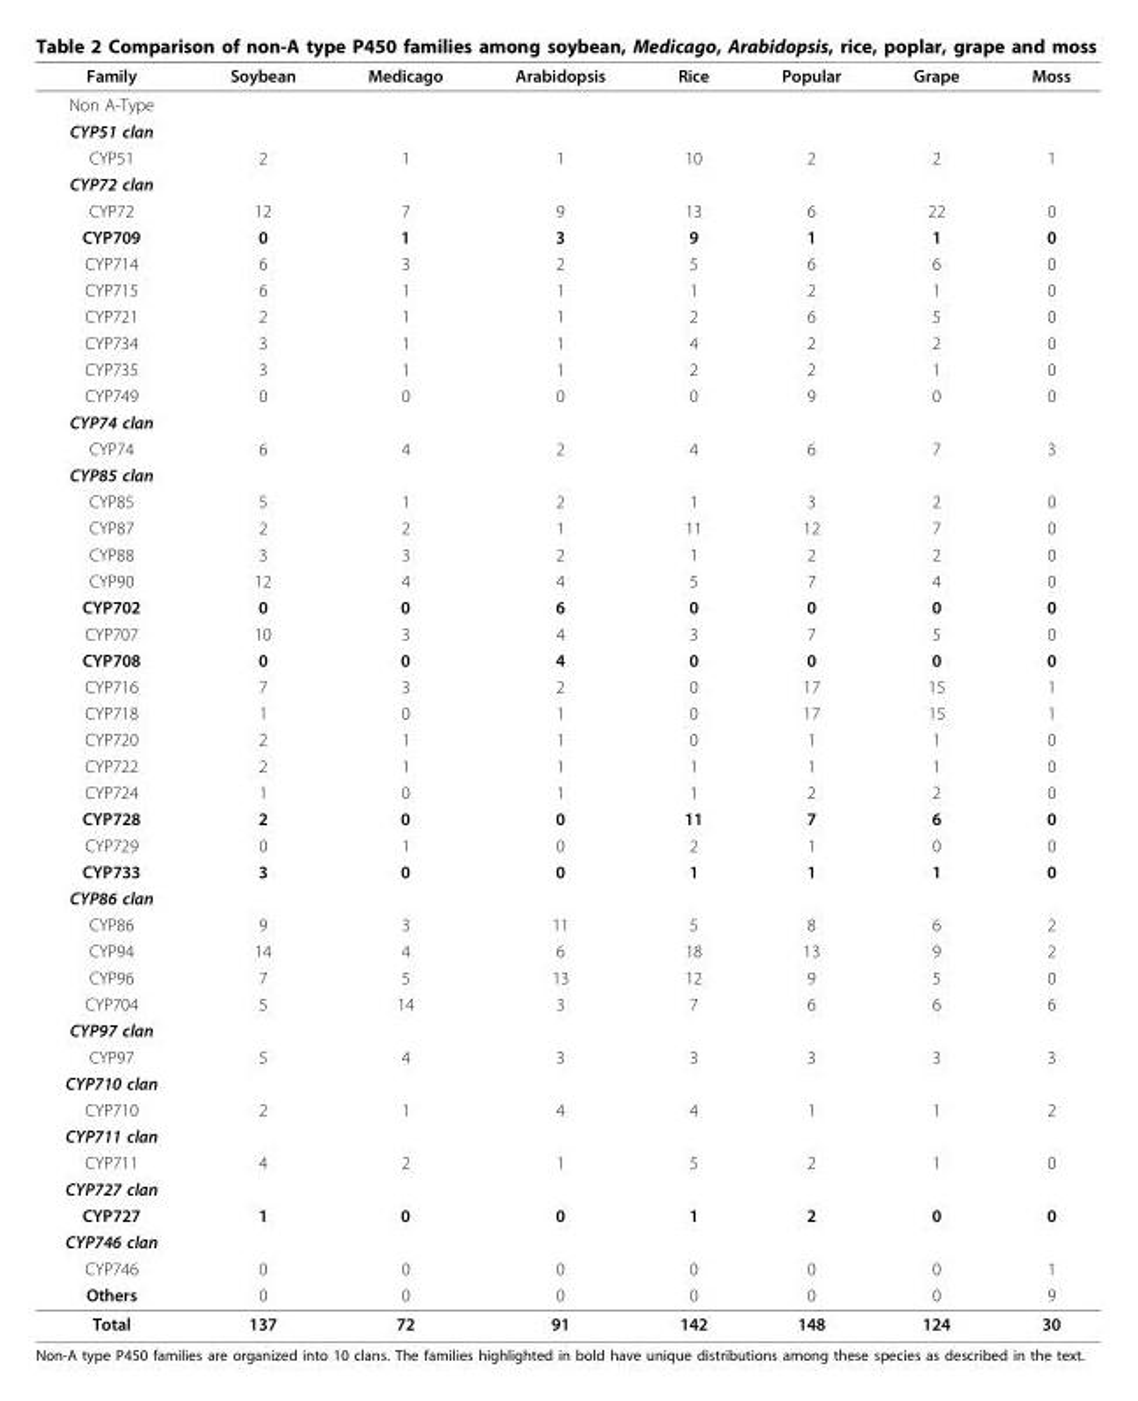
<table><thead><tr><td>Family</td><td>Soybean</td><td>Medicago</td><td>Arabidopsis</td><td>Rice</td><td>Popular</td><td>Grape</td><td>Moss</td></tr></thead><tbody><tr><td colspan="8">Non A-Type</td></tr><tr><td colspan="8">CYP51 clan</td></tr><tr><td>CYP51</td><td>2</td><td>1</td><td>1</td><td>10</td><td>2</td><td>2</td><td>1</td></tr><tr><td colspan="8">CYP72 clan</td></tr><tr><td>CYP72</td><td>12</td><td>7</td><td>9</td><td>13</td><td>6</td><td>22</td><td>0</td></tr><tr><td>CYP709</td><td>0</td><td>1</td><td>3</td><td>9</td><td>1</td><td>1</td><td>0</td></tr><tr><td>CYP714</td><td>6</td><td>3</td><td>2</td><td>5</td><td>6</td><td>6</td><td>0</td></tr><tr><td>CYP715</td><td>6</td><td>1</td><td>1</td><td>1</td><td>2</td><td>1</td><td>0</td></tr><tr><td>CYP721</td><td>2</td><td>1</td><td>1</td><td>2</td><td>6</td><td>5</td><td>0</td></tr><tr><td>CYP734</td><td>3</td><td>1</td><td>1</td><td>4</td><td>2</td><td>2</td><td>0</td></tr><tr><td>CYP735</td><td>3</td><td>1</td><td>1</td><td>2</td><td>2</td><td>1</td><td>0</td></tr><tr><td>CYP749</td><td>0</td><td>0</td><td>0</td><td>0</td><td>9</td><td>0</td><td>0</td></tr><tr><td colspan="8">CYP74 clan</td></tr><tr><td>CYP74</td><td>6</td><td>4</td><td>2</td><td>4</td><td>6</td><td>7</td><td>3</td></tr><tr><td colspan="8">CYP85 clan</td></tr><tr><td>CYP85</td><td>5</td><td>1</td><td>2</td><td>1</td><td>3</td><td>2</td><td>0</td></tr><tr><td>CYP87</td><td>2</td><td>2</td><td>1</td><td>11</td><td>12</td><td>7</td><td>0</td></tr><tr><td>CYP88</td><td>3</td><td>3</td><td>2</td><td>1</td><td>2</td><td>2</td><td>0</td></tr><tr><td>CYP90</td><td>12</td><td>4</td><td>4</td><td>5</td><td>7</td><td>4</td><td>0</td></tr><tr><td>CYP702</td><td>0</td><td>0</td><td>6</td><td>0</td><td>0</td><td>0</td><td>0</td></tr><tr><td>CYP707</td><td>10</td><td>3</td><td>4</td><td>3</td><td>7</td><td>5</td><td>0</td></tr><tr><td>CYP708</td><td>0</td><td>0</td><td>4</td><td>0</td><td>0</td><td>0</td><td>0</td></tr><tr><td>CYP716</td><td>7</td><td>3</td><td>2</td><td>0</td><td>17</td><td>15</td><td>1</td></tr><tr><td>CYP718</td><td>1</td><td>0</td><td>1</td><td>0</td><td>17</td><td>15</td><td>1</td></tr><tr><td>CYP720</td><td>2</td><td>1</td><td>1</td><td>0</td><td>1</td><td>1</td><td>0</td></tr><tr><td>CYP722</td><td>2</td><td>1</td><td>1</td><td>1</td><td>1</td><td>1</td><td>0</td></tr><tr><td>CYP724</td><td>1</td><td>0</td><td>1</td><td>1</td><td>2</td><td>2</td><td>0</td></tr><tr><td>CYP728</td><td>2</td><td>0</td><td>0</td><td>11</td><td>7</td><td>6</td><td>0</td></tr><tr><td>CYP729</td><td>0</td><td>1</td><td>0</td><td>2</td><td>1</td><td>0</td><td>0</td></tr><tr><td>CYP733</td><td>3</td><td>0</td><td>0</td><td>1</td><td>1</td><td>1</td><td>0</td></tr><tr><td colspan="8">CYP86 clan</td></tr><tr><td>CYP86</td><td>9</td><td>3</td><td>11</td><td>5</td><td>8</td><td>6</td><td>2</td></tr><tr><td>CYP94</td><td>14</td><td>4</td><td>6</td><td>18</td><td>13</td><td>9</td><td>2</td></tr><tr><td>CYP96</td><td>7</td><td>5</td><td>13</td><td>12</td><td>9</td><td>5</td><td>0</td></tr><tr><td>CYP704</td><td>5</td><td>14</td><td>3</td><td>7</td><td>6</td><td>6</td><td>6</td></tr><tr><td colspan="8">CYP97 clan</td></tr><tr><td>CYP97</td><td>5</td><td>4</td><td>3</td><td>3</td><td>3</td><td>3</td><td>3</td></tr><tr><td colspan="8">CYP710 clan</td></tr><tr><td>CYP710</td><td>2</td><td>1</td><td>4</td><td>4</td><td>1</td><td>1</td><td>2</td></tr><tr><td colspan="8">CYP711 clan</td></tr><tr><td>CYP711</td><td>4</td><td>2</td><td>1</td><td>5</td><td>2</td><td>1</td><td>0</td></tr><tr><td colspan="8">CYP727 clan</td></tr><tr><td>CYP727</td><td>1</td><td>0</td><td>0</td><td>1</td><td>2</td><td>0</td><td>0</td></tr><tr><td colspan="8">CYP746 clan</td></tr><tr><td>CYP746</td><td>0</td><td>0</td><td>0</td><td>0</td><td>0</td><td>0</td><td>1</td></tr><tr><td>Others</td><td>0</td><td>0</td><td>0</td><td>0</td><td>0</td><td>0</td><td>9</td></tr><tr><td>Total</td><td>137</td><td>72</td><td>91</td><td>142</td><td>148</td><td>124</td><td>30</td></tr></tbody></table>